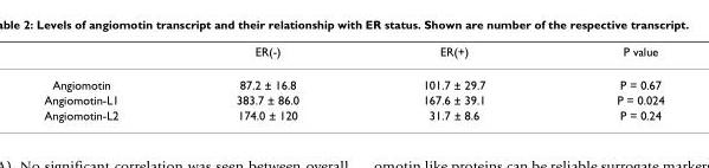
<table><thead><tr><td></td><td>ER(-)</td><td>ER(+)</td><td>P value</td></tr></thead><tbody><tr><td>Angiomotin</td><td>87.2 ± 16.8</td><td>101.7 ± 29.7</td><td>P = 0.67</td></tr><tr><td>Angiomotin-L1</td><td>383.7 ± 86.0</td><td>167.6 ± 39.1</td><td>P = 0.024</td></tr><tr><td>Angiomotin-L2</td><td>174.0 ± 120</td><td>31.7 ± 8.6</td><td>P = 0.24</td></tr></tbody></table>